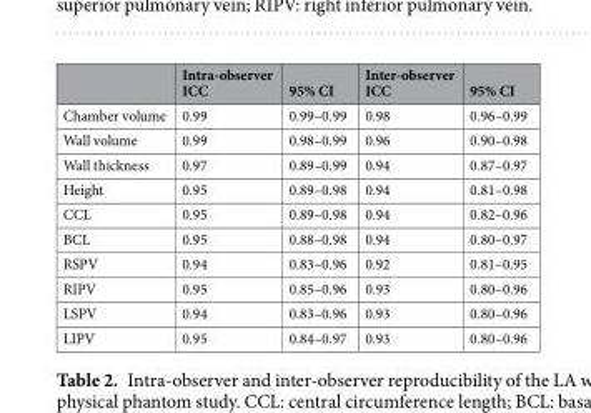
<table><thead><tr><td></td><td>Intra-observer ICC</td><td>95% CI</td><td>Inter-observer ICC</td><td>95% CI</td></tr></thead><tbody><tr><td>Chamber volume</td><td>0.99</td><td>0.99–0.99</td><td>0.98</td><td>0.96–0.99</td></tr><tr><td>Wall volume</td><td>0.99</td><td>0.98–0.99</td><td>0.96</td><td>0.90–0.98</td></tr><tr><td>Wall thickness</td><td>0.97</td><td>0.89–0.99</td><td>0.94</td><td>0.87–0.97</td></tr><tr><td>Height</td><td>0.95</td><td>0.89–0.98</td><td>0.94</td><td>0.81–0.98</td></tr><tr><td>CCL</td><td>0.95</td><td>0.89–0.98</td><td>0.94</td><td>0.82–0.96</td></tr><tr><td>BCL</td><td>0.95</td><td>0.88–0.98</td><td>0.94</td><td>0.80–0.97</td></tr><tr><td>RSPV</td><td>0.94</td><td>0.83–0.96</td><td>0.92</td><td>0.81–0.95</td></tr><tr><td>RIPV</td><td>0.95</td><td>0.85–0.96</td><td>0.93</td><td>0.80–0.96</td></tr><tr><td>LSPV</td><td>0.94</td><td>0.83–0.96</td><td>0.93</td><td>0.80–0.96</td></tr><tr><td>LIPV</td><td>0.95</td><td>0.84–0.97</td><td>0.93</td><td>0.80–0.96</td></tr></tbody></table>